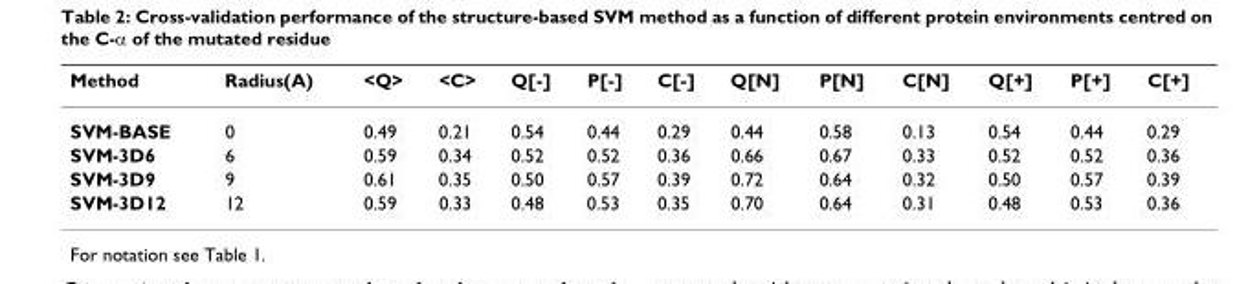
<table><thead><tr><td>Method</td><td>Radius(A)</td><td>&lt;Q&gt;</td><td>&lt;C&gt;</td><td>Q[-]</td><td>P[-]</td><td>C[-]</td><td>Q[N]</td><td>P[N]</td><td>C[N]</td><td>Q[+]</td><td>P[+]</td><td>C[+]</td></tr></thead><tbody><tr><td>SVM-BASE</td><td>0</td><td>0.49</td><td>0.21</td><td>0.54</td><td>0.44</td><td>0.29</td><td>0.44</td><td>0.58</td><td>0.13</td><td>0.54</td><td>0.44</td><td>0.29</td></tr><tr><td>SVM-3D6</td><td>6</td><td>0.59</td><td>0.34</td><td>0.52</td><td>0.52</td><td>0.36</td><td>0.66</td><td>0.67</td><td>0.33</td><td>0.52</td><td>0.52</td><td>0.36</td></tr><tr><td>SVM-3D9</td><td>9</td><td>0.61</td><td>0.35</td><td>0.50</td><td>0.57</td><td>0.39</td><td>0.72</td><td>0.64</td><td>0.32</td><td>0.50</td><td>0.57</td><td>0.39</td></tr><tr><td>SVM-3D12</td><td>12</td><td>0.59</td><td>0.33</td><td>0.48</td><td>0.53</td><td>0.35</td><td>0.70</td><td>0.64</td><td>0.31</td><td>0.48</td><td>0.53</td><td>0.36</td></tr></tbody></table>